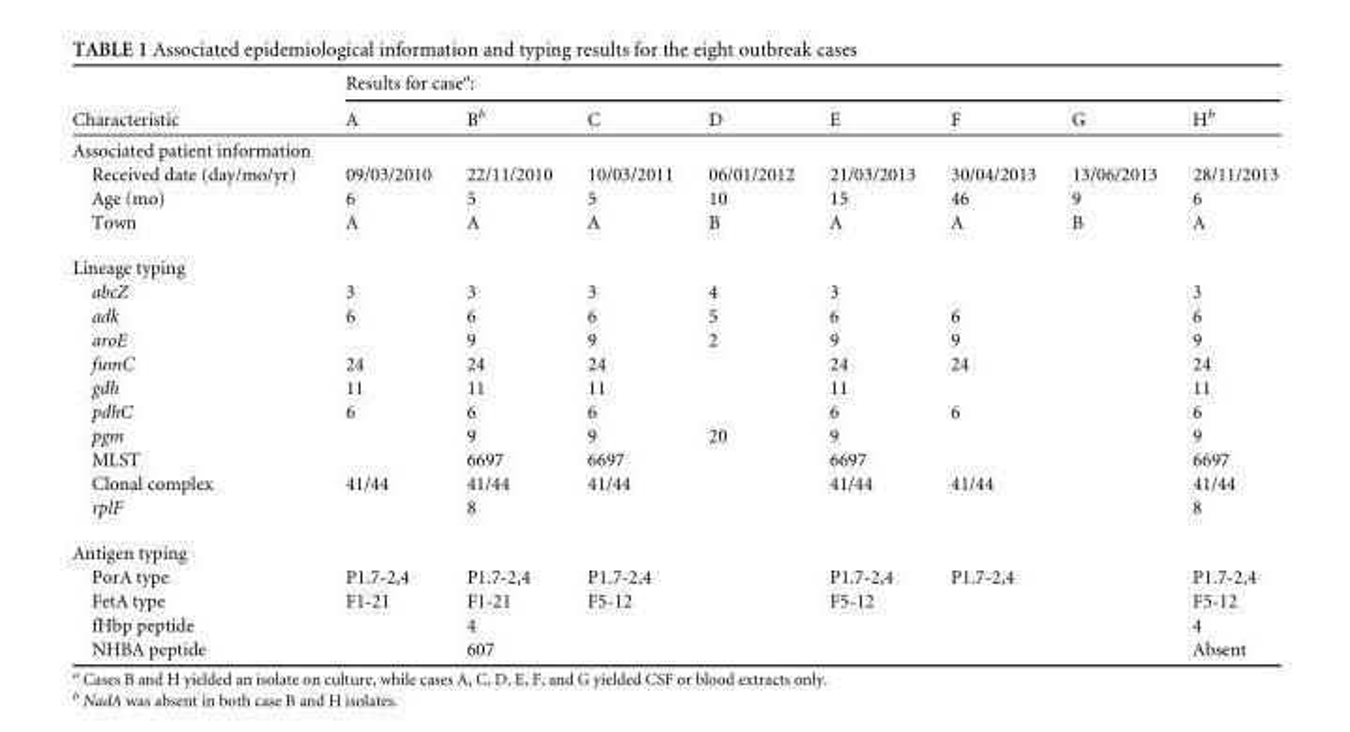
<table><thead><tr><td rowspan="2">Characteristic</td><td colspan="8">Results for case<sup>a</sup>:</td></tr><tr><td>A</td><td>B<sup>b</sup></td><td>C</td><td>D</td><td>E</td><td>F</td><td>G</td><td>H<sup>b</sup></td></tr></thead><tbody><tr><td colspan="9">Associated patient information</td></tr><tr><td>Received date (day/mo/yr)</td><td>09/03/2010</td><td>22/11/2010</td><td>10/03/2011</td><td>06/01/2012</td><td>21/03/2013</td><td>30/04/2013</td><td>13/06/2013</td><td>28/11/2013</td></tr><tr><td>Age (mo)</td><td>6</td><td>5</td><td>5</td><td>10</td><td>15</td><td>46</td><td>9</td><td>6</td></tr><tr><td>Town</td><td>A</td><td>A</td><td>A</td><td>B</td><td>A</td><td>A</td><td>B</td><td>A</td></tr><tr><td colspan="9">Lineage typing</td></tr><tr><td>abcZ</td><td>3</td><td>3</td><td>3</td><td>4</td><td>3</td><td></td><td></td><td>3</td></tr><tr><td>adk</td><td>6</td><td>6</td><td>6</td><td>5</td><td>6</td><td>6</td><td></td><td>6</td></tr><tr><td>aroE</td><td></td><td>9</td><td>9</td><td>2</td><td>9</td><td>9</td><td></td><td>9</td></tr><tr><td>fumC</td><td>24</td><td>24</td><td>24</td><td></td><td>24</td><td>24</td><td></td><td>24</td></tr><tr><td>gdh</td><td>11</td><td>11</td><td>11</td><td></td><td>11</td><td></td><td></td><td>11</td></tr><tr><td>pdhC</td><td>6</td><td>6</td><td>6</td><td></td><td>6</td><td>6</td><td></td><td>6</td></tr><tr><td>pgm</td><td></td><td>9</td><td>9</td><td>20</td><td>9</td><td></td><td></td><td>9</td></tr><tr><td>MLST</td><td></td><td>6697</td><td>6697</td><td></td><td>6697</td><td></td><td></td><td>6697</td></tr><tr><td>Clonal complex</td><td>41/44</td><td>41/44</td><td>41/44</td><td></td><td>41/44</td><td>41/44</td><td></td><td>41/44</td></tr><tr><td>rplF</td><td></td><td>8</td><td></td><td></td><td></td><td></td><td></td><td>8</td></tr><tr><td colspan="9">Antigen typing</td></tr><tr><td>PorA type</td><td>P1.7-2,4</td><td>P1.7-2,4</td><td>P1.7-2,4</td><td></td><td>P1.7-2,4</td><td>P1.7-2,4</td><td></td><td>P1.7-2,4</td></tr><tr><td>FetA type</td><td>F1-21</td><td>F1-21</td><td>F5-12</td><td></td><td>F5-12</td><td></td><td></td><td>F5-12</td></tr><tr><td>fHbp peptide</td><td></td><td>4</td><td></td><td></td><td></td><td></td><td></td><td>4</td></tr><tr><td>NHBA peptide</td><td></td><td>607</td><td></td><td></td><td></td><td></td><td></td><td>Absent</td></tr></tbody></table>